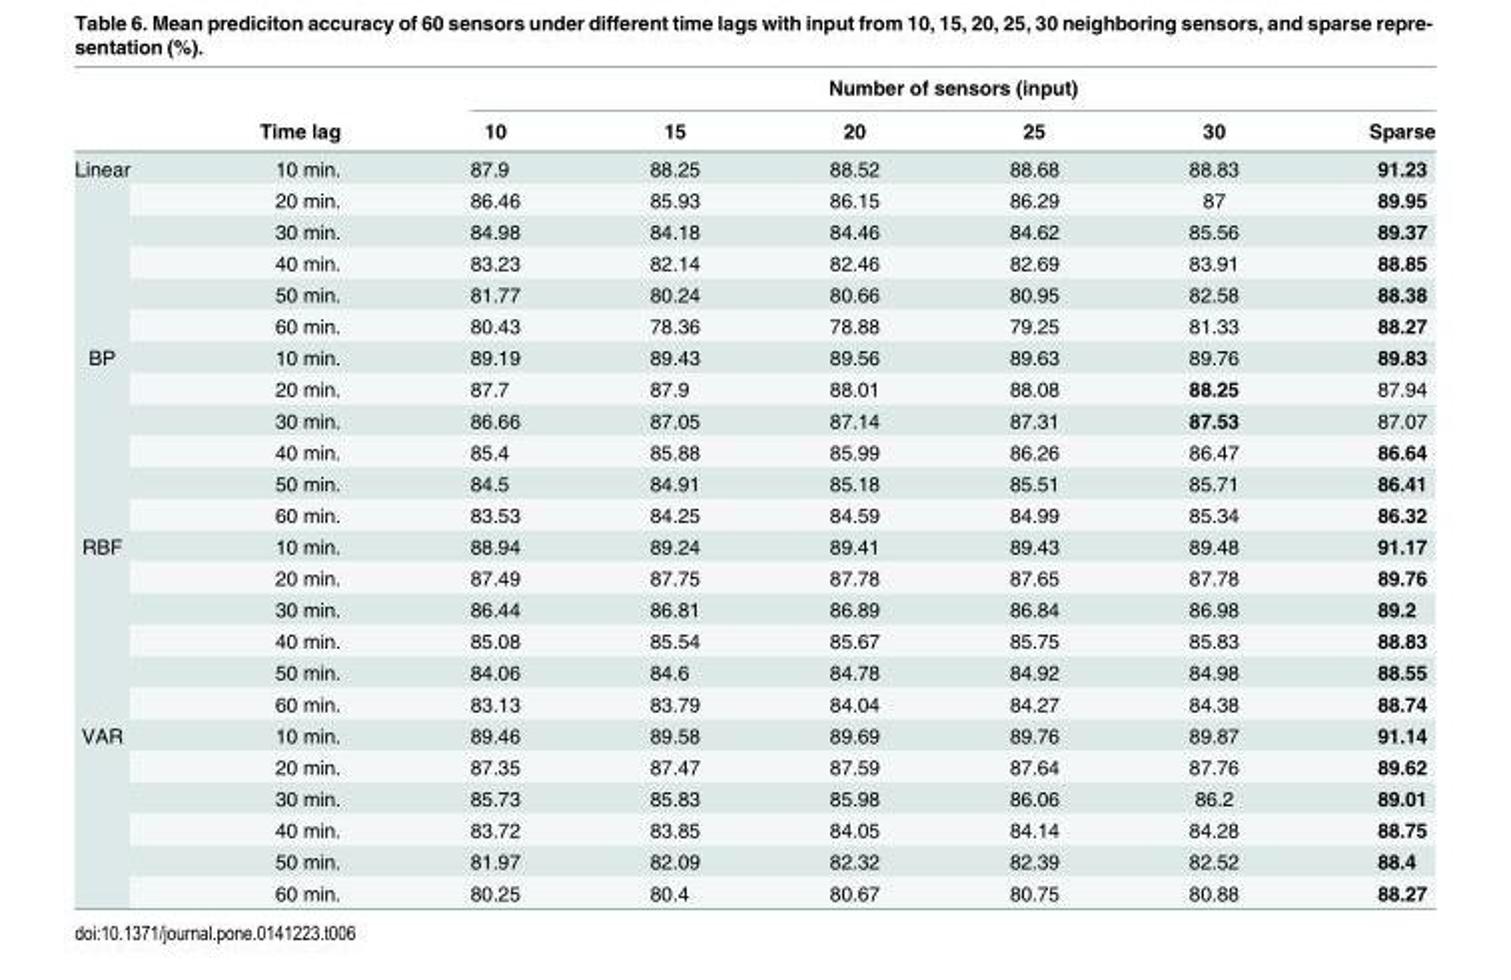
<table><thead><tr><td rowspan="2"></td><td rowspan="2">Time lag</td><td colspan="6">Number of sensors (input)</td></tr><tr><td>10</td><td>15</td><td>20</td><td>25</td><td>30</td><td>Sparse</td></tr></thead><tbody><tr><td rowspan="6">Linear</td><td>10 min.</td><td>87.9</td><td>88.25</td><td>88.52</td><td>88.68</td><td>88.83</td><td>91.23</td></tr><tr><td>20 min.</td><td>86.46</td><td>85.93</td><td>86.15</td><td>86.29</td><td>87</td><td>89.95</td></tr><tr><td>30 min.</td><td>84.98</td><td>84.18</td><td>84.46</td><td>84.62</td><td>85.56</td><td>89.37</td></tr><tr><td>40 min.</td><td>83.23</td><td>82.14</td><td>82.46</td><td>82.69</td><td>83.91</td><td>88.85</td></tr><tr><td>50 min.</td><td>81.77</td><td>80.24</td><td>80.66</td><td>80.95</td><td>82.58</td><td>88.38</td></tr><tr><td>60 min.</td><td>80.43</td><td>78.36</td><td>78.88</td><td>79.25</td><td>81.33</td><td>88.27</td></tr><tr><td rowspan="6">BP</td><td>10 min.</td><td>89.19</td><td>89.43</td><td>89.56</td><td>89.63</td><td>89.76</td><td>89.83</td></tr><tr><td>20 min.</td><td>87.7</td><td>87.9</td><td>88.01</td><td>88.08</td><td>88.25</td><td>87.94</td></tr><tr><td>30 min.</td><td>86.66</td><td>87.05</td><td>87.14</td><td>87.31</td><td>87.53</td><td>87.07</td></tr><tr><td>40 min.</td><td>85.4</td><td>85.88</td><td>85.99</td><td>86.26</td><td>86.47</td><td>86.64</td></tr><tr><td>50 min.</td><td>84.5</td><td>84.91</td><td>85.18</td><td>85.51</td><td>85.71</td><td>86.41</td></tr><tr><td>60 min.</td><td>83.53</td><td>84.25</td><td>84.59</td><td>84.99</td><td>85.34</td><td>86.32</td></tr><tr><td rowspan="6">RBF</td><td>10 min.</td><td>88.94</td><td>89.24</td><td>89.41</td><td>89.43</td><td>89.48</td><td>91.17</td></tr><tr><td>20 min.</td><td>87.49</td><td>87.75</td><td>87.78</td><td>87.65</td><td>87.78</td><td>89.76</td></tr><tr><td>30 min.</td><td>86.44</td><td>86.81</td><td>86.89</td><td>86.84</td><td>86.98</td><td>89.2</td></tr><tr><td>40 min.</td><td>85.08</td><td>85.54</td><td>85.67</td><td>85.75</td><td>85.83</td><td>88.83</td></tr><tr><td>50 min.</td><td>84.06</td><td>84.6</td><td>84.78</td><td>84.92</td><td>84.98</td><td>88.55</td></tr><tr><td>60 min.</td><td>83.13</td><td>83.79</td><td>84.04</td><td>84.27</td><td>84.38</td><td>88.74</td></tr><tr><td rowspan="6">VAR</td><td>10 min.</td><td>89.46</td><td>89.58</td><td>89.69</td><td>89.76</td><td>89.87</td><td>91.14</td></tr><tr><td>20 min.</td><td>87.35</td><td>87.47</td><td>87.59</td><td>87.64</td><td>87.76</td><td>89.62</td></tr><tr><td>30 min.</td><td>85.73</td><td>85.83</td><td>85.98</td><td>86.06</td><td>86.2</td><td>89.01</td></tr><tr><td>40 min.</td><td>83.72</td><td>83.85</td><td>84.05</td><td>84.14</td><td>84.28</td><td>88.75</td></tr><tr><td>50 min.</td><td>81.97</td><td>82.09</td><td>82.32</td><td>82.39</td><td>82.52</td><td>88.4</td></tr><tr><td>60 min.</td><td>80.25</td><td>80.4</td><td>80.67</td><td>80.75</td><td>80.88</td><td>88.27</td></tr></tbody></table>